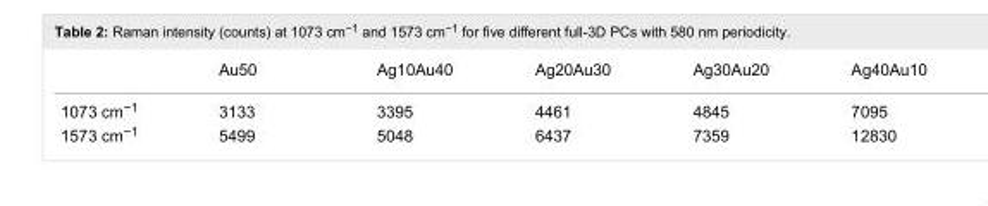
<table><thead><tr><td></td><td>Au50</td><td>Ag10Au40</td><td>Ag20Au30</td><td>Ag30Au20</td><td>Ag40Au10</td></tr></thead><tbody><tr><td>1073 cm<sup>−1</sup></td><td>3133</td><td>3395</td><td>4461</td><td>4845</td><td>7095</td></tr><tr><td>1573 cm<sup>−1</sup></td><td>5499</td><td>5048</td><td>6437</td><td>7359</td><td>12830</td></tr></tbody></table>